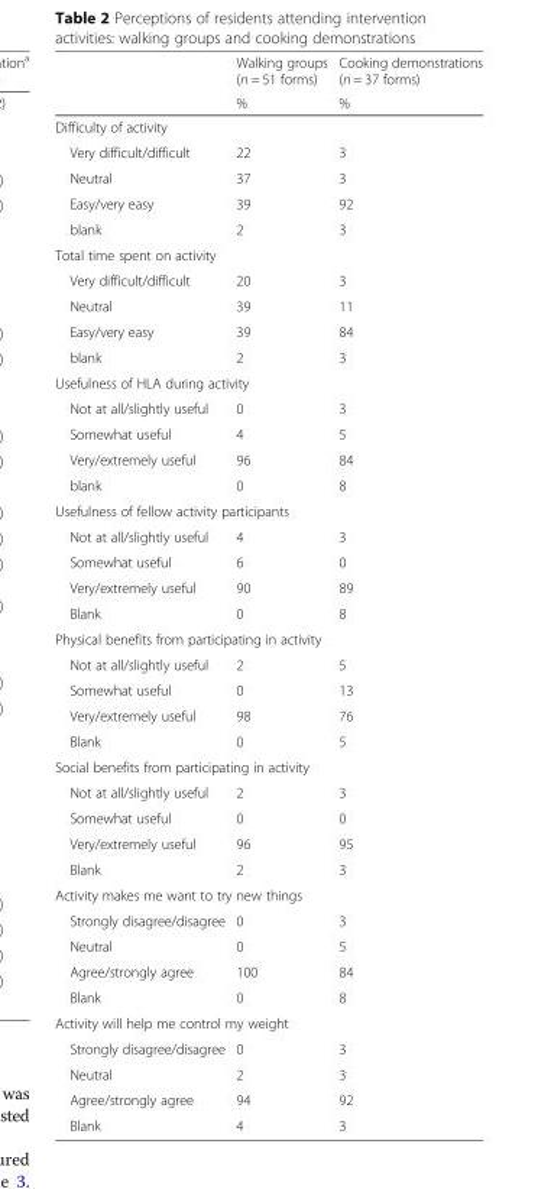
<table><thead><tr><td rowspan="2"></td><td rowspan="2">Walking groups (n = 51 forms) %</td><td rowspan="2">Cooking demonstrations (n = 37 forms) %</td></tr><tr></tr></thead><tbody><tr><td colspan="3">Difficulty of activity</td></tr><tr><td>Very difficult/difficult</td><td>22</td><td>3</td></tr><tr><td>Neutral</td><td>37</td><td>3</td></tr><tr><td>Easy/very easy</td><td>39</td><td>92</td></tr><tr><td>blank</td><td>2</td><td>3</td></tr><tr><td colspan="3">Total time spent on activity</td></tr><tr><td>Very difficult/difficult</td><td>20</td><td>3</td></tr><tr><td>Neutral</td><td>39</td><td>11</td></tr><tr><td>Easy/very easy</td><td>39</td><td>84</td></tr><tr><td>blank</td><td>2</td><td>3</td></tr><tr><td colspan="3">Usefulness of HLA during activity</td></tr><tr><td>Not at all/slightly useful</td><td>0</td><td>3</td></tr><tr><td>Somewhat useful</td><td>4</td><td>5</td></tr><tr><td>Very/extremely useful</td><td>96</td><td>84</td></tr><tr><td>blank</td><td>0</td><td>8</td></tr><tr><td colspan="3">Usefulness of fellow activity participants</td></tr><tr><td>Not at all/slightly useful</td><td>4</td><td>3</td></tr><tr><td>Somewhat useful</td><td>6</td><td>0</td></tr><tr><td>Very/extremely useful</td><td>90</td><td>89</td></tr><tr><td>Blank</td><td>0</td><td>8</td></tr><tr><td colspan="3">Physical benefits from participating in activity</td></tr><tr><td>Not at all/slightly useful</td><td>2</td><td>5</td></tr><tr><td>Somewhat useful</td><td>0</td><td>13</td></tr><tr><td>Very/extremely useful</td><td>98</td><td>76</td></tr><tr><td>Blank</td><td>0</td><td>5</td></tr><tr><td colspan="3">Social benefits from participating in activity</td></tr><tr><td>Not at all/slightly useful</td><td>2</td><td>3</td></tr><tr><td>Somewhat useful</td><td>0</td><td>0</td></tr><tr><td>Very/extremely useful</td><td>96</td><td>95</td></tr><tr><td>Blank</td><td>2</td><td>3</td></tr><tr><td colspan="3">Activity makes me want to try new things</td></tr><tr><td>Strongly disagree/disagree</td><td>0</td><td>3</td></tr><tr><td>Neutral</td><td>0</td><td>5</td></tr><tr><td>Agree/strongly agree</td><td>100</td><td>84</td></tr><tr><td>Blank</td><td>0</td><td>8</td></tr><tr><td colspan="3">Activity will help me control my weight</td></tr><tr><td>Strongly disagree/disagree</td><td>0</td><td>3</td></tr><tr><td>Neutral</td><td>2</td><td>3</td></tr><tr><td>Agree/strongly agree</td><td>94</td><td>92</td></tr><tr><td>Blank</td><td>4</td><td>3</td></tr></tbody></table>